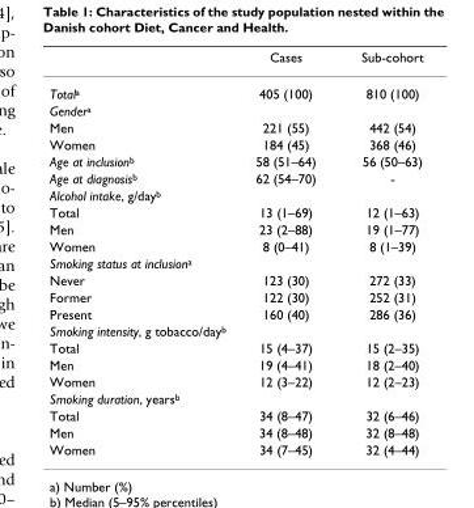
<table><thead><tr><td></td><td>Cases</td><td>Sub-cohort</td></tr></thead><tbody><tr><td>Total<sup>a</sup></td><td>405 (100)</td><td>810 (100)</td></tr><tr><td colspan="3">Gender<sup>a</sup></td></tr><tr><td>Men</td><td>221 (55)</td><td>442 (54)</td></tr><tr><td>Women</td><td>184 (45)</td><td>368 (46)</td></tr><tr><td>Age at inclusion<sup>b</sup></td><td>58 (51–64)</td><td>56 (50–63)</td></tr><tr><td>Age at diagnosis<sup>b</sup></td><td>62 (54–70)</td><td>-</td></tr><tr><td colspan="3">Alcohol intake, g/day<sup>b</sup></td></tr><tr><td>Total</td><td>13 (1–69)</td><td>12 (1–63)</td></tr><tr><td>Men</td><td>23 (2–88)</td><td>19 (1–77)</td></tr><tr><td>Women</td><td>8 (0–41)</td><td>8 (1–39)</td></tr><tr><td colspan="3">Smoking status at inclusion<sup>a</sup></td></tr><tr><td>Never</td><td>123 (30)</td><td>272 (33)</td></tr><tr><td>Former</td><td>122 (30)</td><td>252 (31)</td></tr><tr><td>Present</td><td>160 (40)</td><td>286 (36)</td></tr><tr><td colspan="3">Smoking intensity, g tobacco/day<sup>b</sup></td></tr><tr><td>Total</td><td>15 (4–37)</td><td>15 (2–35)</td></tr><tr><td>Men</td><td>19 (4–41)</td><td>18 (2–40)</td></tr><tr><td>Women</td><td>12 (3–22)</td><td>12 (2–23)</td></tr><tr><td colspan="3">Smoking duration, years<sup>b</sup></td></tr><tr><td>Total</td><td>34 (8–47)</td><td>32 (6–46)</td></tr><tr><td>Men</td><td>34 (8–48)</td><td>32 (8–48)</td></tr><tr><td>Women</td><td>34 (7–45)</td><td>32 (4–44)</td></tr></tbody></table>